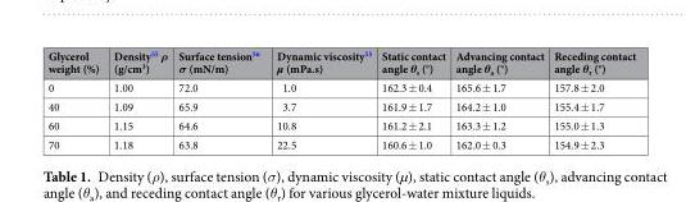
<table><thead><tr><td>Glycerol weight (%)</td><td>Density<sup>55</sup> ρ (g/cm<sup>3</sup>)</td><td>Surface tension<sup>56</sup> σ (mN/m)</td><td>Dynamic viscosity<sup>55</sup> µ (mPa.s)</td><td>Static contact angle θ<sub>s</sub> (°)</td><td>Advancing contact angle θ<sub>a</sub> (°)</td><td>Receding contact angle θ<sub>r</sub> (°)</td></tr></thead><tbody><tr><td>0</td><td>1.00</td><td>72.0</td><td>1.0</td><td>162.3 ± 0.4</td><td>165.6 ± 1.7</td><td>157.8 ± 2.0</td></tr><tr><td>40</td><td>1.09</td><td>65.9</td><td>3.7</td><td>161.9 ± 1.7</td><td>164.2 ± 1.0</td><td>155.4 ± 1.7</td></tr><tr><td>60</td><td>1.15</td><td>64.6</td><td>10.8</td><td>161.2 ± 2.1</td><td>163.3 ± 1.2</td><td>155.0 ± 1.3</td></tr><tr><td>70</td><td>1.18</td><td>63.8</td><td>22.5</td><td>160.6 ± 1.0</td><td>162.0 ± 0.3</td><td>154.9 ± 2.3</td></tr></tbody></table>